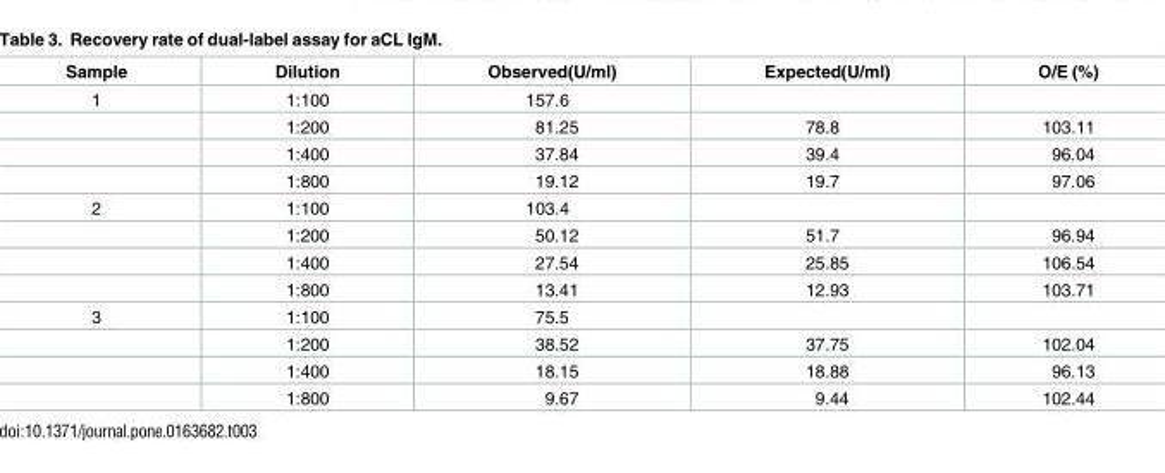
<table><thead><tr><td>Sample</td><td>Dilution</td><td>Observed(U/ml)</td><td>Expected(U/ml)</td><td>O/E (%)</td></tr></thead><tbody><tr><td rowspan="4">1</td><td>1:100</td><td>157.6</td><td></td><td></td></tr><tr><td>1:200</td><td>81.25</td><td>78.8</td><td>103.11</td></tr><tr><td>1:400</td><td>37.84</td><td>39.4</td><td>96.04</td></tr><tr><td>1:800</td><td>19.12</td><td>19.7</td><td>97.06</td></tr><tr><td rowspan="4">2</td><td>1:100</td><td>103.4</td><td></td><td></td></tr><tr><td>1:200</td><td>50.12</td><td>51.7</td><td>96.94</td></tr><tr><td>1:400</td><td>27.54</td><td>25.85</td><td>106.54</td></tr><tr><td>1:800</td><td>13.41</td><td>12.93</td><td>103.71</td></tr><tr><td rowspan="4">3</td><td>1:100</td><td>75.5</td><td></td><td></td></tr><tr><td>1:200</td><td>38.52</td><td>37.75</td><td>102.04</td></tr><tr><td>1:400</td><td>18.15</td><td>18.88</td><td>96.13</td></tr><tr><td>1:800</td><td>9.67</td><td>9.44</td><td>102.44</td></tr></tbody></table>